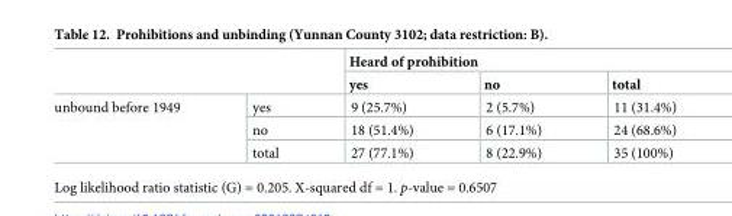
<table><thead><tr><td rowspan="2"></td><td rowspan="2"></td><td colspan="3">Heard of prohibition</td></tr><tr><td>yes</td><td>no</td><td>total</td></tr></thead><tbody><tr><td rowspan="3">unbound before 1949</td><td>yes</td><td>9 (25.7%)</td><td>2 (5.7%)</td><td>11 (31.4%)</td></tr><tr><td>no</td><td>18 (51.4%)</td><td>6 (17.1%)</td><td>24 (68.6%)</td></tr><tr><td>total</td><td>27 (77.1%)</td><td>8 (22.9%)</td><td>35 (100%)</td></tr></tbody></table>